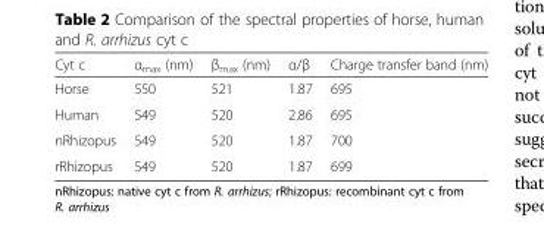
<table><thead><tr><td>Cyt c</td><td>α<sub>max</sub> (nm)</td><td>β<sub>max</sub> (nm)</td><td>α/β</td><td>Charge transfer band (nm)</td></tr></thead><tbody><tr><td>Horse</td><td>550</td><td>521</td><td>1.87</td><td>695</td></tr><tr><td>Human</td><td>549</td><td>520</td><td>2.86</td><td>695</td></tr><tr><td>nRhizopus</td><td>549</td><td>520</td><td>1.87</td><td>700</td></tr><tr><td>rRhizopus</td><td>549</td><td>520</td><td>1.87</td><td>699</td></tr></tbody></table>